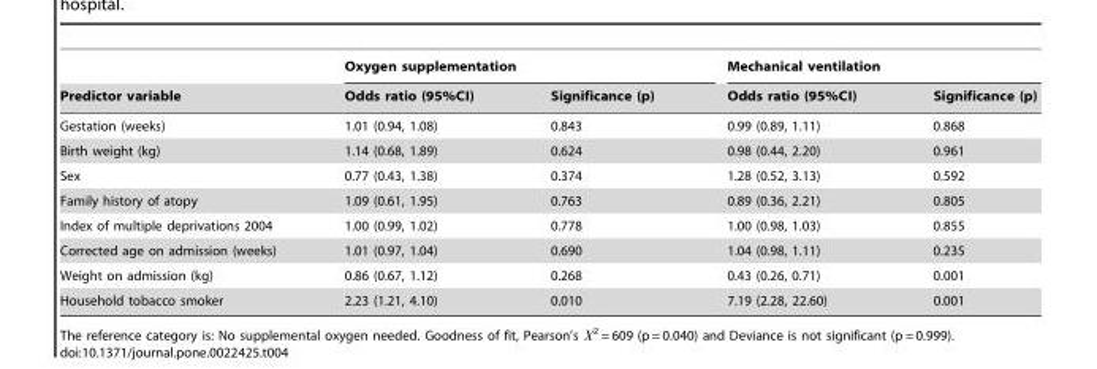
<table><thead><tr><td rowspan="2">Predictor variable</td><td colspan="2">Oxygen supplementation</td><td colspan="2">Mechanical ventilation</td></tr><tr><td>Odds ratio (95%CI)</td><td>Significance (p)</td><td>Odds ratio (95%CI)</td><td>Significance (p)</td></tr></thead><tbody><tr><td>Gestation (weeks)</td><td>1.01 (0.94, 1.08)</td><td>0.843</td><td>0.99 (0.89, 1.11)</td><td>0.868</td></tr><tr><td>Birth weight (kg)</td><td>1.14 (0.68, 1.89)</td><td>0.624</td><td>0.98 (0.44, 2.20)</td><td>0.961</td></tr><tr><td>Sex</td><td>0.77 (0.43, 1.38)</td><td>0.374</td><td>1.28 (0.52, 3.13)</td><td>0.592</td></tr><tr><td>Family history of atopy</td><td>1.09 (0.61, 1.95)</td><td>0.763</td><td>0.89 (0.36, 2.21)</td><td>0.805</td></tr><tr><td>Index of multiple deprivations 2004</td><td>1.00 (0.99, 1.02)</td><td>0.778</td><td>1.00 (0.98, 1.03)</td><td>0.855</td></tr><tr><td>Corrected age on admission (weeks)</td><td>1.01 (0.97, 1.04)</td><td>0.690</td><td>1.04 (0.98, 1.11)</td><td>0.235</td></tr><tr><td>Weight on admission (kg)</td><td>0.86 (0.67, 1.12)</td><td>0.268</td><td>0.43 (0.26, 0.71)</td><td>0.001</td></tr><tr><td>Household tobacco smoker</td><td>2.23 (1.21, 4.10)</td><td>0.010</td><td>7.19 (2.28, 22.60)</td><td>0.001</td></tr></tbody></table>